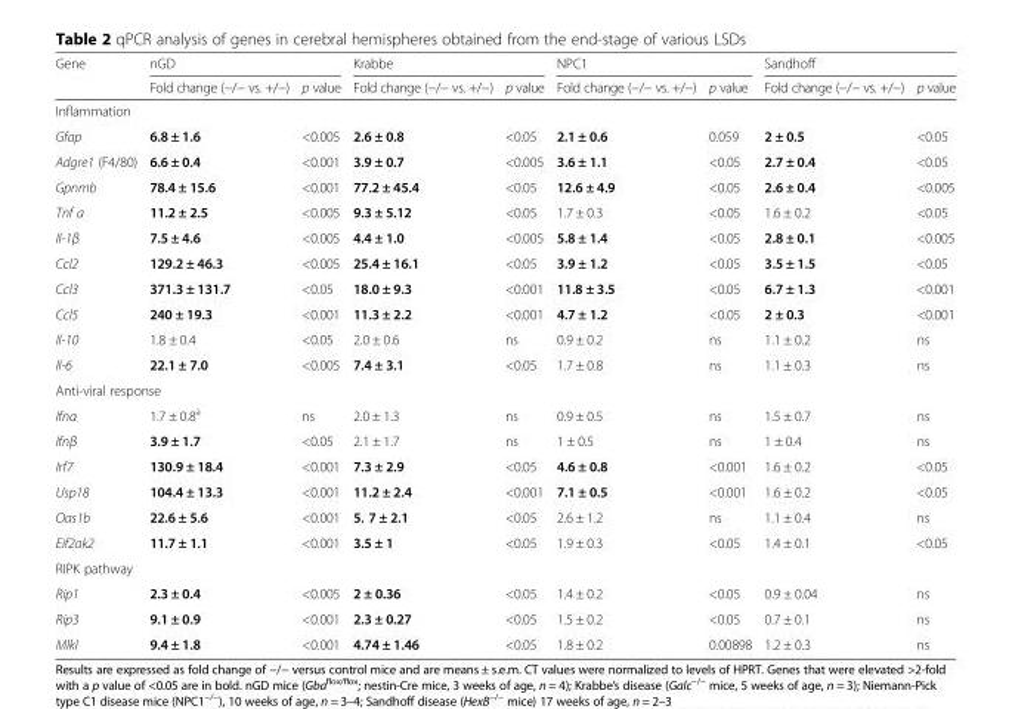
<table><thead><tr><td rowspan="2">Gene</td><td colspan="2">nGD</td><td colspan="2">Krabbe</td><td colspan="2">NPC1</td><td colspan="2">Sandhoff</td></tr><tr><td>Fold change (−/− vs. +/−)</td><td>p value</td><td>Fold change (−/− vs. +/−)</td><td>p value</td><td>Fold change (−/− vs. +/−)</td><td>p value</td><td>Fold change (−/− vs. +/−)</td><td>p value</td></tr></thead><tbody><tr><td colspan="9">Inflammation</td></tr><tr><td>Gfap</td><td>6.8 ± 1.6</td><td>&lt;0.005</td><td>2.6 ± 0.8</td><td>&lt;0.05</td><td>2.1 ± 0.6</td><td>0.059</td><td>2 ± 0.5</td><td>&lt;0.05</td></tr><tr><td>Adgre1 (F4/80)</td><td>6.6 ± 0.4</td><td>&lt;0.001</td><td>3.9 ± 0.7</td><td>&lt;0.005</td><td>3.6 ± 1.1</td><td>&lt;0.05</td><td>2.7 ± 0.4</td><td>&lt;0.05</td></tr><tr><td>Gpnmb</td><td>78.4 ± 15.6</td><td>&lt;0.001</td><td>77.2 ± 45.4</td><td>&lt;0.05</td><td>12.6 ± 4.9</td><td>&lt;0.05</td><td>2.6 ± 0.4</td><td>&lt;0.005</td></tr><tr><td>Tnf a</td><td>11.2 ± 2.5</td><td>&lt;0.005</td><td>9.3 ± 5.12</td><td>&lt;0.05</td><td>1.7 ± 0.3</td><td>&lt;0.05</td><td>1.6 ± 0.2</td><td>&lt;0.05</td></tr><tr><td>Il-1β</td><td>7.5 ± 4.6</td><td>&lt;0.005</td><td>4.4 ± 1.0</td><td>&lt;0.005</td><td>5.8 ± 1.4</td><td>&lt;0.05</td><td>2.8 ± 0.1</td><td>&lt;0.005</td></tr><tr><td>Ccl2</td><td>129.2 ± 46.3</td><td>&lt;0.005</td><td>25.4 ± 16.1</td><td>&lt;0.05</td><td>3.9 ± 1.2</td><td>&lt;0.05</td><td>3.5 ± 1.5</td><td>&lt;0.05</td></tr><tr><td>Ccl3</td><td>371.3 ± 131.7</td><td>&lt;0.05</td><td>18.0 ± 9.3</td><td>&lt;0.001</td><td>11.8 ± 3.5</td><td>&lt;0.05</td><td>6.7 ± 1.3</td><td>&lt;0.001</td></tr><tr><td>Ccl5</td><td>240 ± 19.3</td><td>&lt;0.001</td><td>11.3 ± 2.2</td><td>&lt;0.001</td><td>4.7 ± 1.2</td><td>&lt;0.05</td><td>2 ± 0.3</td><td>&lt;0.001</td></tr><tr><td>Il-10</td><td>1.8 ± 0.4</td><td>&lt;0.05</td><td>2.0 ± 0.6</td><td>ns</td><td>0.9 ± 0.2</td><td>ns</td><td>1.1 ± 0.2</td><td>ns</td></tr><tr><td>Il-6</td><td>22.1 ± 7.0</td><td>&lt;0.005</td><td>7.4 ± 3.1</td><td>&lt;0.05</td><td>1.7 ± 0.8</td><td>ns</td><td>1.1 ± 0.3</td><td>ns</td></tr><tr><td colspan="9">Anti-viral response</td></tr><tr><td>Ifnα</td><td>1.7 ± 0.8<sup>a</sup></td><td>ns</td><td>2.0 ± 1.3</td><td>ns</td><td>0.9 ± 0.5</td><td>ns</td><td>1.5 ± 0.7</td><td>ns</td></tr><tr><td>Ifnβ</td><td>3.9 ± 1.7</td><td>&lt;0.05</td><td>2.1 ± 1.7</td><td>ns</td><td>1 ± 0.5</td><td>ns</td><td>1 ± 0.4</td><td>ns</td></tr><tr><td>Irf7</td><td>130.9 ± 18.4</td><td>&lt;0.001</td><td>7.3 ± 2.9</td><td>&lt;0.05</td><td>4.6 ± 0.8</td><td>&lt;0.001</td><td>1.6 ± 0.2</td><td>&lt;0.05</td></tr><tr><td>Usp18</td><td>104.4 ± 13.3</td><td>&lt;0.001</td><td>11.2 ± 2.4</td><td>&lt;0.001</td><td>7.1 ± 0.5</td><td>&lt;0.001</td><td>1.6 ± 0.2</td><td>&lt;0.05</td></tr><tr><td>Oas1b</td><td>22.6 ± 5.6</td><td>&lt;0.001</td><td>5. 7 ± 2.1</td><td>&lt;0.05</td><td>2.6 ± 1.2</td><td>ns</td><td>1.1 ± 0.4</td><td>ns</td></tr><tr><td>Eif2ak2</td><td>11.7 ± 1.1</td><td>&lt;0.001</td><td>3.5 ± 1</td><td>&lt;0.05</td><td>1.9 ± 0.3</td><td>&lt;0.05</td><td>1.4 ± 0.1</td><td>&lt;0.05</td></tr><tr><td colspan="9">RIPK pathway</td></tr><tr><td>Rip1</td><td>2.3 ± 0.4</td><td>&lt;0.005</td><td>2 ± 0.36</td><td>&lt;0.05</td><td>1.4 ± 0.2</td><td>&lt;0.05</td><td>0.9 ± 0.04</td><td>ns</td></tr><tr><td>Rip3</td><td>9.1 ± 0.9</td><td>&lt;0.001</td><td>2.3 ± 0.27</td><td>&lt;0.05</td><td>1.5 ± 0.2</td><td>&lt;0.05</td><td>0.7 ± 0.1</td><td>ns</td></tr><tr><td>Mlkl</td><td>9.4 ± 1.8</td><td>&lt;0.001</td><td>4.74 ± 1.46</td><td>&lt;0.05</td><td>1.8 ± 0.2</td><td>0.00898</td><td>1.2 ± 0.3</td><td>ns</td></tr></tbody></table>